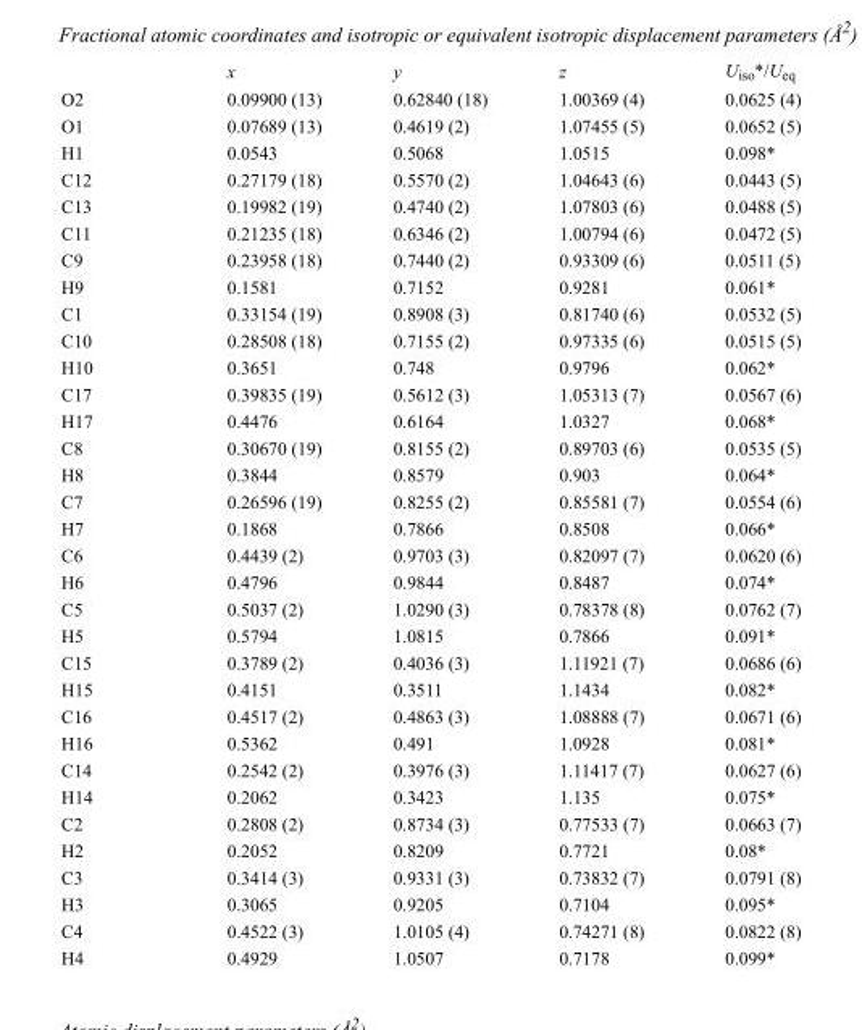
<table><thead><tr><td></td><td>x</td><td>y</td><td>z</td><td>U<sub>iso</sub>*/U<sub>eq</sub></td></tr></thead><tbody><tr><td>O2</td><td>0.09900 (13)</td><td>0.62840 (18)</td><td>1.00369 (4)</td><td>0.0625 (4)</td></tr><tr><td>O1</td><td>0.07689 (13)</td><td>0.4619 (2)</td><td>1.07455 (5)</td><td>0.0652 (5)</td></tr><tr><td>H1</td><td>0.0543</td><td>0.5068</td><td>1.0515</td><td>0.098*</td></tr><tr><td>C12</td><td>0.27179 (18)</td><td>0.5570 (2)</td><td>1.04643 (6)</td><td>0.0443 (5)</td></tr><tr><td>C13</td><td>0.19982 (19)</td><td>0.4740 (2)</td><td>1.07803 (6)</td><td>0.0488 (5)</td></tr><tr><td>C11</td><td>0.21235 (18)</td><td>0.6346 (2)</td><td>1.00794 (6)</td><td>0.0472 (5)</td></tr><tr><td>C9</td><td>0.23958 (18)</td><td>0.7440 (2)</td><td>0.93309 (6)</td><td>0.0511 (5)</td></tr><tr><td>H9</td><td>0.1581</td><td>0.7152</td><td>0.9281</td><td>0.061*</td></tr><tr><td>C1</td><td>0.33154 (19)</td><td>0.8908 (3)</td><td>0.81740 (6)</td><td>0.0532 (5)</td></tr><tr><td>C10</td><td>0.28508 (18)</td><td>0.7155 (2)</td><td>0.97335 (6)</td><td>0.0515 (5)</td></tr><tr><td>H10</td><td>0.3651</td><td>0.748</td><td>0.9796</td><td>0.062*</td></tr><tr><td>C17</td><td>0.39835 (19)</td><td>0.5612 (3)</td><td>1.05313 (7)</td><td>0.0567 (6)</td></tr><tr><td>H17</td><td>0.4476</td><td>0.6164</td><td>1.0327</td><td>0.068*</td></tr><tr><td>C8</td><td>0.30670 (19)</td><td>0.8155 (2)</td><td>0.89703 (6)</td><td>0.0535 (5)</td></tr><tr><td>H8</td><td>0.3844</td><td>0.8579</td><td>0.903</td><td>0.064*</td></tr><tr><td>C7</td><td>0.26596 (19)</td><td>0.8255 (2)</td><td>0.85581 (7)</td><td>0.0554 (6)</td></tr><tr><td>H7</td><td>0.1868</td><td>0.7866</td><td>0.8508</td><td>0.066*</td></tr><tr><td>C6</td><td>0.4439 (2)</td><td>0.9703 (3)</td><td>0.82097 (7)</td><td>0.0620 (6)</td></tr><tr><td>H6</td><td>0.4796</td><td>0.9844</td><td>0.8487</td><td>0.074*</td></tr><tr><td>C5</td><td>0.5037 (2)</td><td>1.0290 (3)</td><td>0.78378 (8)</td><td>0.0762 (7)</td></tr><tr><td>H5</td><td>0.5794</td><td>1.0815</td><td>0.7866</td><td>0.091*</td></tr><tr><td>C15</td><td>0.3789 (2)</td><td>0.4036 (3)</td><td>1.11921 (7)</td><td>0.0686 (6)</td></tr><tr><td>H15</td><td>0.4151</td><td>0.3511</td><td>1.1434</td><td>0.082*</td></tr><tr><td>C16</td><td>0.4517 (2)</td><td>0.4863 (3)</td><td>1.08888 (7)</td><td>0.0671 (6)</td></tr><tr><td>H16</td><td>0.5362</td><td>0.491</td><td>1.0928</td><td>0.081*</td></tr><tr><td>C14</td><td>0.2542 (2)</td><td>0.3976 (3)</td><td>1.11417 (7)</td><td>0.0627 (6)</td></tr><tr><td>H14</td><td>0.2062</td><td>0.3423</td><td>1.135</td><td>0.075*</td></tr><tr><td>C2</td><td>0.2808 (2)</td><td>0.8734 (3)</td><td>0.77533 (7)</td><td>0.0663 (7)</td></tr><tr><td>H2</td><td>0.2052</td><td>0.8209</td><td>0.7721</td><td>0.08*</td></tr><tr><td>C3</td><td>0.3414 (3)</td><td>0.9331 (3)</td><td>0.73832 (7)</td><td>0.0791 (8)</td></tr><tr><td>H3</td><td>0.3065</td><td>0.9205</td><td>0.7104</td><td>0.095*</td></tr><tr><td>C4</td><td>0.4522 (3)</td><td>1.0105 (4)</td><td>0.74271 (8)</td><td>0.0822 (8)</td></tr><tr><td>H4</td><td>0.4929</td><td>1.0507</td><td>0.7178</td><td>0.099*</td></tr></tbody></table>